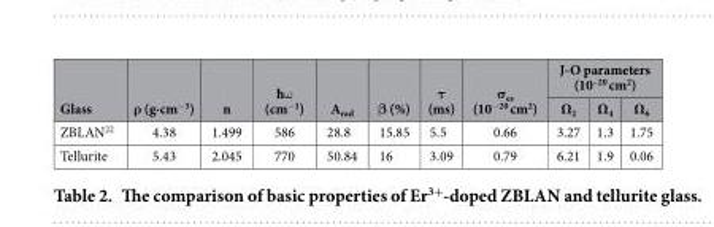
<table><thead><tr><td rowspan="2">Glass</td><td rowspan="2">ρ (g·cm<sup>−3</sup>)</td><td rowspan="2">n</td><td rowspan="2">ħω (cm<sup>−1</sup>)</td><td rowspan="2">A<sub>rad</sub></td><td rowspan="2">β (%)</td><td rowspan="2">τ (ms)</td><td rowspan="2">σ <sub>es</sub> (10<sup>−20</sup> cm<sup>2</sup>)</td><td colspan="3">J-O parameters (10<sup>–20</sup> cm<sup>2</sup>)</td></tr><tr><td>Ω<sub>2</sub></td><td>Ω<sub>4</sub></td><td>Ω<sub>6</sub></td></tr></thead><tbody><tr><td>ZBLAN<sup>22</sup></td><td>4.38</td><td>1.499</td><td>586</td><td>28.8</td><td>15.85</td><td>5.5</td><td>0.66</td><td>3.27</td><td>1.3</td><td>1.75</td></tr><tr><td>Tellurite</td><td>5.43</td><td>2.045</td><td>770</td><td>50.84</td><td>16</td><td>3.09</td><td>0.79</td><td>6.21</td><td>1.9</td><td>0.06</td></tr></tbody></table>